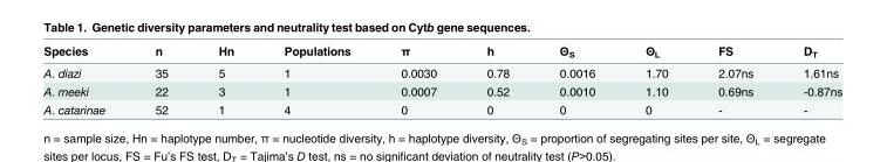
<table><thead><tr><td>Species</td><td>n</td><td>Hn</td><td>Populations</td><td>π</td><td>h</td><td>Θ<sub>S</sub></td><td>Θ<sub>L</sub></td><td>FS</td><td>D<sub>T</sub></td></tr></thead><tbody><tr><td>A. diazi</td><td>35</td><td>5</td><td>1</td><td>0.0030</td><td>0.78</td><td>0.0016</td><td>1.70</td><td>2.07ns</td><td>1.61ns</td></tr><tr><td>A. meeki</td><td>22</td><td>3</td><td>1</td><td>0.0007</td><td>0.52</td><td>0.0010</td><td>1.10</td><td>0.69ns</td><td>-0.87ns</td></tr><tr><td>A. catarinae</td><td>52</td><td>1</td><td>4</td><td>0</td><td>0</td><td>0</td><td>0</td><td>-</td><td>-</td></tr></tbody></table>